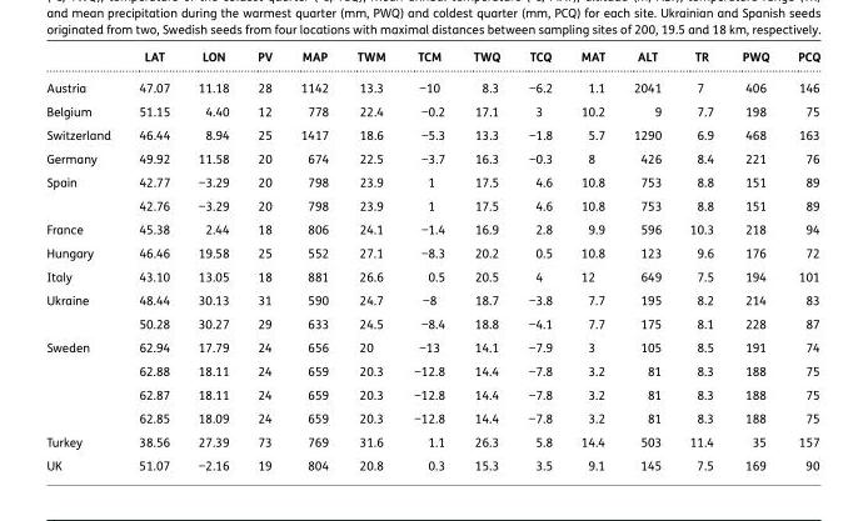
<table><thead><tr><td></td><td>LAT</td><td>LON</td><td>PV</td><td>MAP</td><td>TWM</td><td>TCM</td><td>TWQ</td><td>TCQ</td><td>MAT</td><td>ALT</td><td>TR</td><td>PWQ</td><td>PCQ</td></tr></thead><tbody><tr><td>Austria</td><td>47.07</td><td>11.18</td><td>28</td><td>1142</td><td>13.3</td><td>−10</td><td>8.3</td><td>−6.2</td><td>1.1</td><td>2041</td><td>7</td><td>406</td><td>146</td></tr><tr><td>Belgium</td><td>51.15</td><td>4.40</td><td>12</td><td>778</td><td>22.4</td><td>−0.2</td><td>17.1</td><td>3</td><td>10.2</td><td>9</td><td>7.7</td><td>198</td><td>75</td></tr><tr><td>Switzerland</td><td>46.44</td><td>8.94</td><td>25</td><td>1417</td><td>18.6</td><td>−5.3</td><td>13.3</td><td>−1.8</td><td>5.7</td><td>1290</td><td>6.9</td><td>468</td><td>163</td></tr><tr><td>Germany</td><td>49.92</td><td>11.58</td><td>20</td><td>674</td><td>22.5</td><td>−3.7</td><td>16.3</td><td>−0.3</td><td>8</td><td>426</td><td>8.4</td><td>221</td><td>76</td></tr><tr><td rowspan="2">Spain</td><td>42.77</td><td>−3.29</td><td>20</td><td>798</td><td>23.9</td><td>1</td><td>17.5</td><td>4.6</td><td>10.8</td><td>753</td><td>8.8</td><td>151</td><td>89</td></tr><tr><td>42.76</td><td>−3.29</td><td>20</td><td>798</td><td>23.9</td><td>1</td><td>17.5</td><td>4.6</td><td>10.8</td><td>753</td><td>8.8</td><td>151</td><td>89</td></tr><tr><td>France</td><td>45.38</td><td>2.44</td><td>18</td><td>806</td><td>24.1</td><td>−1.4</td><td>16.9</td><td>2.8</td><td>9.9</td><td>596</td><td>10.3</td><td>218</td><td>94</td></tr><tr><td>Hungary</td><td>46.46</td><td>19.58</td><td>25</td><td>552</td><td>27.1</td><td>−8.3</td><td>20.2</td><td>0.5</td><td>10.8</td><td>123</td><td>9.6</td><td>176</td><td>72</td></tr><tr><td>Italy</td><td>43.10</td><td>13.05</td><td>18</td><td>881</td><td>26.6</td><td>0.5</td><td>20.5</td><td>4</td><td>12</td><td>649</td><td>7.5</td><td>194</td><td>101</td></tr><tr><td rowspan="2">Ukraine</td><td>48.44</td><td>30.13</td><td>31</td><td>590</td><td>24.7</td><td>−8</td><td>18.7</td><td>−3.8</td><td>7.7</td><td>195</td><td>8.2</td><td>214</td><td>83</td></tr><tr><td>50.28</td><td>30.27</td><td>29</td><td>633</td><td>24.5</td><td>−8.4</td><td>18.8</td><td>−4.1</td><td>7.7</td><td>175</td><td>8.1</td><td>228</td><td>87</td></tr><tr><td rowspan="4">Sweden</td><td>62.94</td><td>17.79</td><td>24</td><td>656</td><td>20</td><td>−13</td><td>14.1</td><td>−7.9</td><td>3</td><td>105</td><td>8.5</td><td>191</td><td>74</td></tr><tr><td>62.88</td><td>18.11</td><td>24</td><td>659</td><td>20.3</td><td>−12.8</td><td>14.4</td><td>−7.8</td><td>3.2</td><td>81</td><td>8.3</td><td>188</td><td>75</td></tr><tr><td>62.87</td><td>18.11</td><td>24</td><td>659</td><td>20.3</td><td>−12.8</td><td>14.4</td><td>−7.8</td><td>3.2</td><td>81</td><td>8.3</td><td>188</td><td>75</td></tr><tr><td>62.85</td><td>18.09</td><td>24</td><td>659</td><td>20.3</td><td>−12.8</td><td>14.4</td><td>−7.8</td><td>3.2</td><td>81</td><td>8.3</td><td>188</td><td>75</td></tr><tr><td>Turkey</td><td>38.56</td><td>27.39</td><td>73</td><td>769</td><td>31.6</td><td>1.1</td><td>26.3</td><td>5.8</td><td>14.4</td><td>503</td><td>11.4</td><td>35</td><td>157</td></tr><tr><td>UK</td><td>51.07</td><td>−2.16</td><td>19</td><td>804</td><td>20.8</td><td>0.3</td><td>15.3</td><td>3.5</td><td>9.1</td><td>145</td><td>7.5</td><td>169</td><td>90</td></tr></tbody></table>